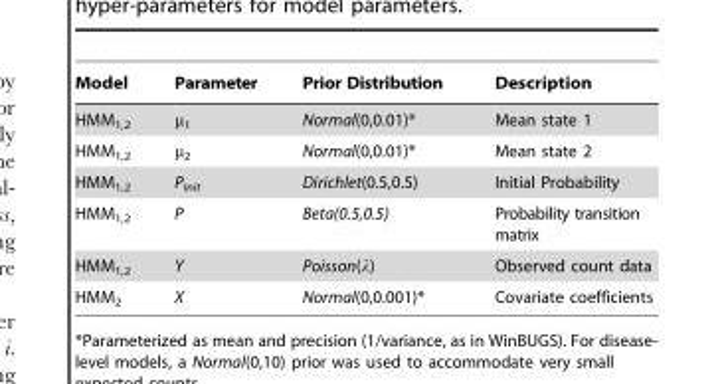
<table><thead><tr><td>Model</td><td>Parameter</td><td>Prior Distribution</td><td>Description</td></tr></thead><tbody><tr><td>HMM<sub>1,2</sub></td><td>μ<sub>1</sub></td><td>Normal(0,0.01)*</td><td>Mean state 1</td></tr><tr><td>HMM<sub>1,2</sub></td><td>μ<sub>2</sub></td><td>Normal(0,0.01)*</td><td>Mean state 2</td></tr><tr><td>HMM<sub>1,2</sub></td><td>P<sub>Init</sub></td><td>Dirichlet(0.5,0.5)</td><td>Initial Probability</td></tr><tr><td>HMM<sub>1,2</sub></td><td>P</td><td>Beta(0.5,0.5)</td><td>Probability transition matrix</td></tr><tr><td>HMM<sub>1,2</sub></td><td>Y</td><td>Poisson(l)</td><td>Observed count data</td></tr><tr><td>HMM<sub>2</sub></td><td>X</td><td>Normal(0,0.001)*</td><td>Covariate coefficients</td></tr></tbody></table>